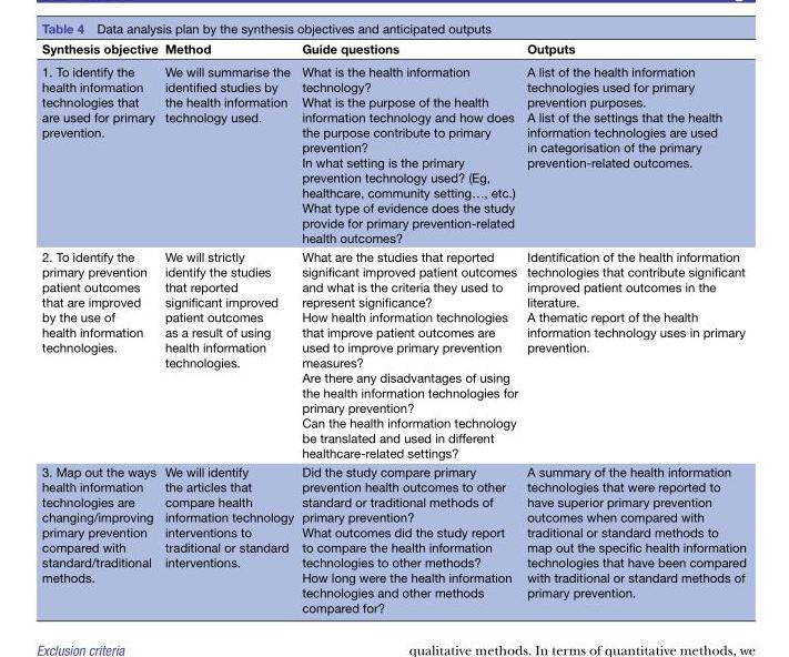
<table><thead><tr><td>Synthesis objective</td><td>Method</td><td>Guide questions</td><td>Outputs</td></tr></thead><tbody><tr><td>1. To identify the health information technologies that are used for primary prevention.</td><td>We will summarise the identified studies by the health information technology used.</td><td>What is the health information technology? What is the purpose of the health information technology and how does the purpose contribute to primary prevention? In what setting is the primary prevention technology used? (Eg, healthcare, community setting…, etc.) What type of evidence does the study provide for primary prevention-related health outcomes?</td><td>A list of the health information technologies used for primary prevention purposes. A list of the settings that the health information technologies are used in categorisation of the primary prevention-related outcomes.</td></tr><tr><td>2. To identify the primary prevention patient outcomes that are improved by the use of health information technologies.</td><td>We will strictly identify the studies that reported significant improved patient outcomes as a result of using health information technologies.</td><td>What are the studies that reported significant improved patient outcomes and what is the criteria they used to represent significance? How health information technologies that improve patient outcomes are used to improve primary prevention measures? Are there any disadvantages of using the health information technologies for primary prevention? Can the health information technology be translated and used in different healthcare-related settings?</td><td>Identification of the health information technologies that contribute significant improved patient outcomes in the literature. A thematic report of the health information technology uses in primary prevention.</td></tr><tr><td>3. Map out the ways health information technologies are changing/improving primary prevention compared with standard/traditional methods.</td><td>We will identify the articles that compare health information technology interventions to traditional or standard interventions.</td><td>Did the study compare primary prevention health outcomes to other standard or traditional methods of primary prevention? What outcomes did the study report to compare the health information technologies to other methods? How long were the health information technologies and other methods compared for?</td><td>A summary of the health information technologies that were reported to have superior primary prevention outcomes when compared with traditional or standard methods to map out the specific health information technologies that have been compared with traditional or standard methods of primary prevention.</td></tr></tbody></table>